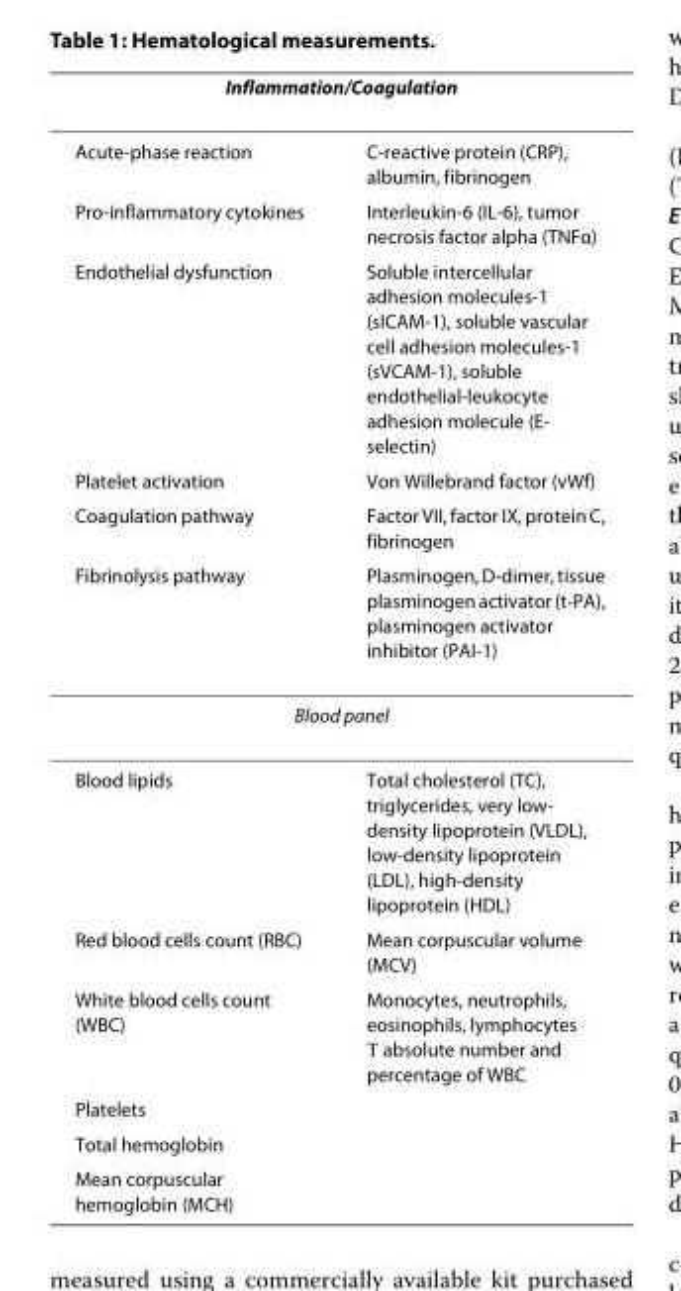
<table><thead><tr><td colspan="2">Inflammation/Coagulation</td></tr><tr><td>Acute-phase reaction</td><td>C-reactive protein (CRP), albumin, fibrinogen</td></tr></thead><tbody><tr><td>Pro-inflammatory cytokines</td><td>Interleukin-6 (IL-6), tumor necrosis factor alpha (TNFα)</td></tr><tr><td>Endothelial dysfunction</td><td>Soluble intercellular adhesion molecules-1 (sICAM-1), soluble vascular cell adhesion molecules-1 (sVCAM-1), soluble endothelial-leukocyte adhesion molecule (E- selectin)</td></tr><tr><td>Platelet activation</td><td>Von Willebrand factor (vWf)</td></tr><tr><td>Coagulation pathway</td><td>Factor VII, factor IX, protein C, fibrinogen</td></tr><tr><td>Fibrinolysis pathway</td><td>Plasminogen, D-dimer, tissue plasminogen activator (t-PA), plasminogen activator inhibitor (PAI-1)</td></tr><tr><td colspan="2">Blood panel</td></tr><tr><td>Blood lipids</td><td>Total cholesterol (TC), triglycerides, very low- density lipoprotein (VLDL), low-density lipoprotein (LDL), high-density lipoprotein (HDL)</td></tr><tr><td>Red blood cells count (RBC)</td><td>Mean corpuscular volume (MCV)</td></tr><tr><td>White blood cells count (WBC)</td><td>Monocytes, neutrophils, eosinophils, lymphocytes → absolute number and percentage of WBC</td></tr><tr><td colspan="2">Platelets</td></tr><tr><td colspan="2">Total hemoglobin</td></tr><tr><td>Mean corpuscular hemoglobin (MCH)</td><td></td></tr></tbody></table>